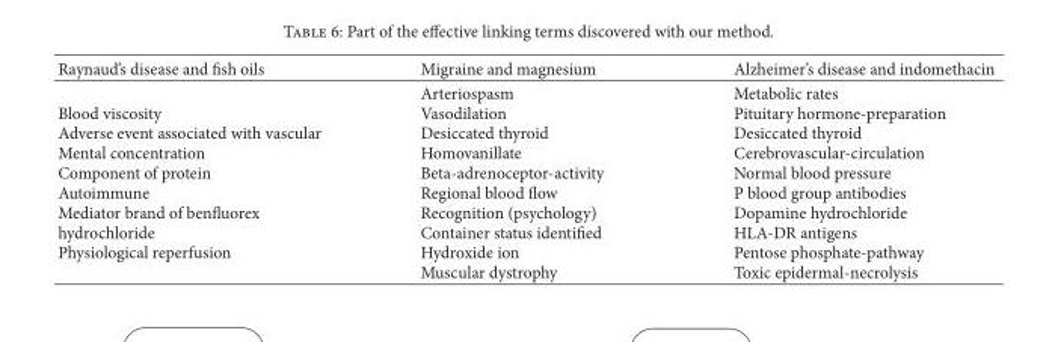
<table><thead><tr><td>Raynaud’s disease and fish oils</td><td>Migraine and magnesium</td><td>Alzheimer’s disease and indomethacin</td></tr></thead><tbody><tr><td>Blood viscosity Adverse event associated with vascular Mental concentration Component of protein Autoimmune Mediator brand of benfluorex hydrochloride Physiological reperfusion</td><td>Arteriospasm Vasodilation Desiccated thyroid Homovanillate Beta-adrenoceptor-activity Regional blood flow Recognition (psychology) Container status identified Hydroxide ion Muscular dystrophy</td><td>Metabolic rates Pituitary hormone-preparation Desiccated thyroid Cerebrovascular-circulation Normal blood pressure P blood group antibodies Dopamine hydrochloride HLA-DR antigens Pentose phosphate-pathway Toxic epidermal-necrolysis</td></tr></tbody></table>